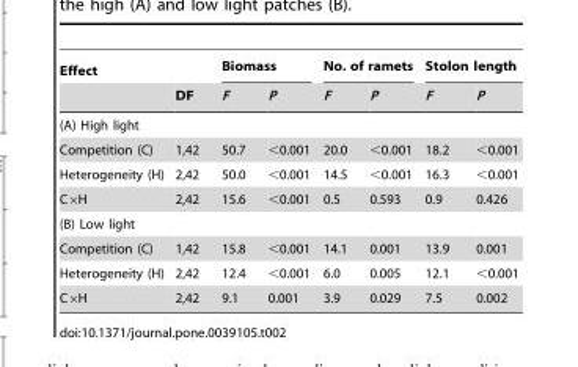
<table><thead><tr><td rowspan="2">Effect</td><td rowspan="2">DF</td><td colspan="2">Biomass</td><td colspan="2">No. of ramets</td><td colspan="2">Stolon length</td></tr><tr><td>F</td><td>P</td><td>F</td><td>P</td><td>F</td><td>P</td></tr></thead><tbody><tr><td colspan="8">(A) High light</td></tr><tr><td>Competition (C)</td><td>1,42</td><td>50.7</td><td>&lt;0.001</td><td>20.0</td><td>&lt;0.001</td><td>18.2</td><td>&lt;0.001</td></tr><tr><td>Heterogeneity (H)</td><td>2,42</td><td>50.0</td><td>&lt;0.001</td><td>14.5</td><td>&lt;0.001</td><td>16.3</td><td>&lt;0.001</td></tr><tr><td>C×H</td><td>2,42</td><td>15.6</td><td>&lt;0.001</td><td>0.5</td><td>0.593</td><td>0.9</td><td>0.426</td></tr><tr><td colspan="8">(B) Low light</td></tr><tr><td>Competition (C)</td><td>1,42</td><td>15.8</td><td>&lt;0.001</td><td>14.1</td><td>0.001</td><td>13.9</td><td>0.001</td></tr><tr><td>Heterogeneity (H)</td><td>2,42</td><td>12.4</td><td>&lt;0.001</td><td>6.0</td><td>0.005</td><td>12.1</td><td>&lt;0.001</td></tr><tr><td>C×H</td><td>2,42</td><td>9.1</td><td>0.001</td><td>3.9</td><td>0.029</td><td>7.5</td><td>0.002</td></tr></tbody></table>